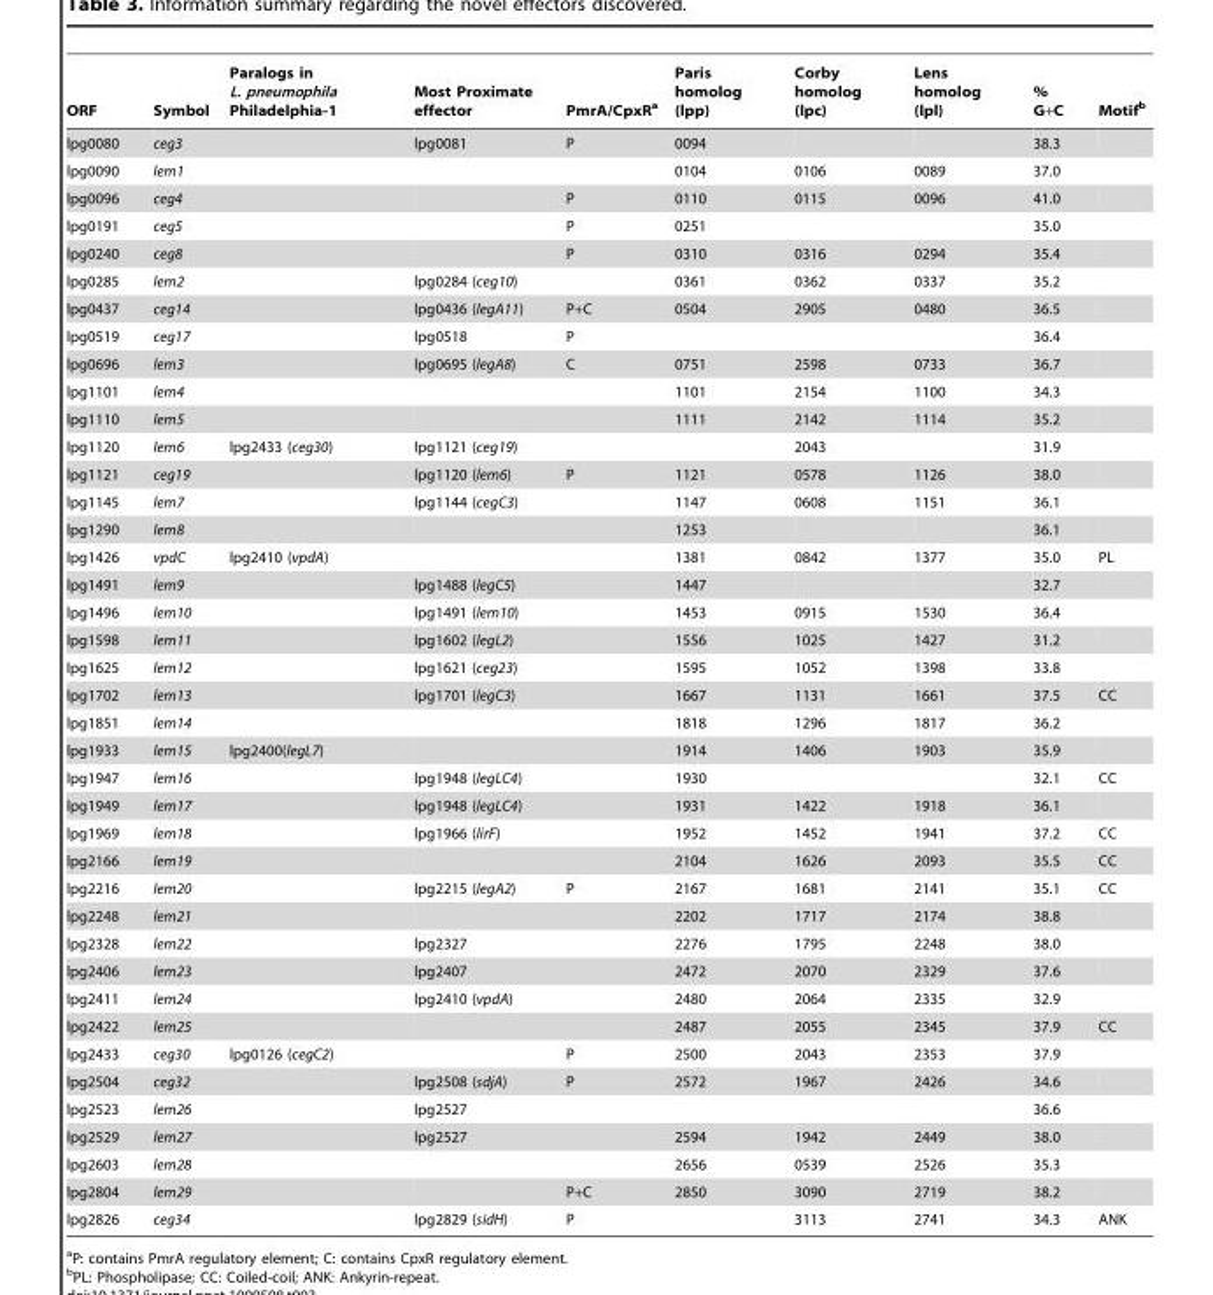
<table><thead><tr><td>ORF</td><td>Symbol</td><td>Paralogs in L. pneumophila Philadelphia-1</td><td>Most Proximate effector</td><td>PmrA/CpxR<sup>a</sup></td><td>Paris homolog (lpp)</td><td>Corby homolog (lpc)</td><td>Lens homolog (lpl)</td><td>% G+C</td><td>Motif<sup>b</sup></td></tr></thead><tbody><tr><td>lpg0080</td><td>ceg3</td><td></td><td>lpg0081</td><td>P</td><td>0094</td><td></td><td></td><td>38.3</td><td></td></tr><tr><td>lpg0090</td><td>lem1</td><td></td><td></td><td></td><td>0104</td><td>0106</td><td>0089</td><td>37.0</td><td></td></tr><tr><td>lpg0096</td><td>ceg4</td><td></td><td></td><td>P</td><td>0110</td><td>0115</td><td>0096</td><td>41.0</td><td></td></tr><tr><td>lpg0191</td><td>ceg5</td><td></td><td></td><td>P</td><td>0251</td><td></td><td></td><td>35.0</td><td></td></tr><tr><td>lpg0240</td><td>ceg8</td><td></td><td></td><td>P</td><td>0310</td><td>0316</td><td>0294</td><td>35.4</td><td></td></tr><tr><td>lpg0285</td><td>lem2</td><td></td><td>lpg0284 (ceg10)</td><td></td><td>0361</td><td>0362</td><td>0337</td><td>35.2</td><td></td></tr><tr><td>lpg0437</td><td>ceg14</td><td></td><td>lpg0436 (legA11)</td><td>P+C</td><td>0504</td><td>2905</td><td>0480</td><td>36.5</td><td></td></tr><tr><td>lpg0519</td><td>ceg17</td><td></td><td>lpg0518</td><td>P</td><td></td><td></td><td></td><td>36.4</td><td></td></tr><tr><td>lpg0696</td><td>lem3</td><td></td><td>lpg0695 (legA8)</td><td>C</td><td>0751</td><td>2598</td><td>0733</td><td>36.7</td><td></td></tr><tr><td>lpg1101</td><td>lem4</td><td></td><td></td><td></td><td>1101</td><td>2154</td><td>1100</td><td>34.3</td><td></td></tr><tr><td>lpg1110</td><td>lem5</td><td></td><td></td><td></td><td>1111</td><td>2142</td><td>1114</td><td>35.2</td><td></td></tr><tr><td>lpg1120</td><td>lem6</td><td>lpg2433 (ceg30)</td><td>lpg1121 (ceg19)</td><td></td><td></td><td>2043</td><td></td><td>31.9</td><td></td></tr><tr><td>lpg1121</td><td>ceg19</td><td></td><td>lpg1120 (lem6)</td><td>P</td><td>1121</td><td>0578</td><td>1126</td><td>38.0</td><td></td></tr><tr><td>lpg1145</td><td>lem7</td><td></td><td>lpg1144 (cegC3)</td><td></td><td>1147</td><td>0608</td><td>1151</td><td>36.1</td><td></td></tr><tr><td>lpg1290</td><td>lem8</td><td></td><td></td><td></td><td>1253</td><td></td><td></td><td>36.1</td><td></td></tr><tr><td>lpg1426</td><td>vpdC</td><td>lpg2410 (vpdA)</td><td></td><td></td><td>1381</td><td>0842</td><td>1377</td><td>35.0</td><td>PL</td></tr><tr><td>lpg1491</td><td>lem9</td><td></td><td>lpg1488 (legC5)</td><td></td><td>1447</td><td></td><td></td><td>32.7</td><td></td></tr><tr><td>lpg1496</td><td>lem10</td><td></td><td>lpg1491 (lem10)</td><td></td><td>1453</td><td>0915</td><td>1530</td><td>36.4</td><td></td></tr><tr><td>lpg1598</td><td>lem11</td><td></td><td>lpg1602 (legL2)</td><td></td><td>1556</td><td>1025</td><td>1427</td><td>31.2</td><td></td></tr><tr><td>lpg1625</td><td>lem12</td><td></td><td>lpg1621 (ceg23)</td><td></td><td>1595</td><td>1052</td><td>1398</td><td>33.8</td><td></td></tr><tr><td>lpg1702</td><td>lem13</td><td></td><td>lpg1701 (legC3)</td><td></td><td>1667</td><td>1131</td><td>1661</td><td>37.5</td><td>CC</td></tr><tr><td>lpg1851</td><td>lem14</td><td></td><td></td><td></td><td>1818</td><td>1296</td><td>1817</td><td>36.2</td><td></td></tr><tr><td>lpg1933</td><td>lem15</td><td>lpg2400(legL7)</td><td></td><td></td><td>1914</td><td>1406</td><td>1903</td><td>35.9</td><td></td></tr><tr><td>lpg1947</td><td>lem16</td><td></td><td>lpg1948 (legLC4)</td><td></td><td>1930</td><td></td><td></td><td>32.1</td><td>CC</td></tr><tr><td>lpg1949</td><td>lem17</td><td></td><td>lpg1948 (legLC4)</td><td></td><td>1931</td><td>1422</td><td>1918</td><td>36.1</td><td></td></tr><tr><td>lpg1969</td><td>lem18</td><td></td><td>lpg1966 (lirF)</td><td></td><td>1952</td><td>1452</td><td>1941</td><td>37.2</td><td>CC</td></tr><tr><td>lpg2166</td><td>lem19</td><td></td><td></td><td></td><td>2104</td><td>1626</td><td>2093</td><td>35.5</td><td>CC</td></tr><tr><td>lpg2216</td><td>lem20</td><td></td><td>lpg2215 (legA2)</td><td>P</td><td>2167</td><td>1681</td><td>2141</td><td>35.1</td><td>CC</td></tr><tr><td>lpg2248</td><td>lem21</td><td></td><td></td><td></td><td>2202</td><td>1717</td><td>2174</td><td>38.8</td><td></td></tr><tr><td>lpg2328</td><td>lem22</td><td></td><td>lpg2327</td><td></td><td>2276</td><td>1795</td><td>2248</td><td>38.0</td><td></td></tr><tr><td>lpg2406</td><td>lem23</td><td></td><td>lpg2407</td><td></td><td>2472</td><td>2070</td><td>2329</td><td>37.6</td><td></td></tr><tr><td>lpg2411</td><td>lem24</td><td></td><td>lpg2410 (vpdA)</td><td></td><td>2480</td><td>2064</td><td>2335</td><td>32.9</td><td></td></tr><tr><td>lpg2422</td><td>lem25</td><td></td><td></td><td></td><td>2487</td><td>2055</td><td>2345</td><td>37.9</td><td>CC</td></tr><tr><td>lpg2433</td><td>ceg30</td><td>lpg0126 (cegC2)</td><td></td><td>P</td><td>2500</td><td>2043</td><td>2353</td><td>37.9</td><td></td></tr><tr><td>lpg2504</td><td>ceg32</td><td></td><td>lpg2508 (sdjA)</td><td>P</td><td>2572</td><td>1967</td><td>2426</td><td>34.6</td><td></td></tr><tr><td>lpg2523</td><td>lem26</td><td></td><td>lpg2527</td><td></td><td></td><td></td><td></td><td>36.6</td><td></td></tr><tr><td>lpg2529</td><td>lem27</td><td></td><td>lpg2527</td><td></td><td>2594</td><td>1942</td><td>2449</td><td>38.0</td><td></td></tr><tr><td>lpg2603</td><td>lem28</td><td></td><td></td><td></td><td>2656</td><td>0539</td><td>2526</td><td>35.3</td><td></td></tr><tr><td>lpg2804</td><td>lem29</td><td></td><td></td><td>P+C</td><td>2850</td><td>3090</td><td>2719</td><td>38.2</td><td></td></tr><tr><td>lpg2826</td><td>ceg34</td><td></td><td>lpg2829 (sidH)</td><td>P</td><td></td><td>3113</td><td>2741</td><td>34.3</td><td>ANK</td></tr></tbody></table>